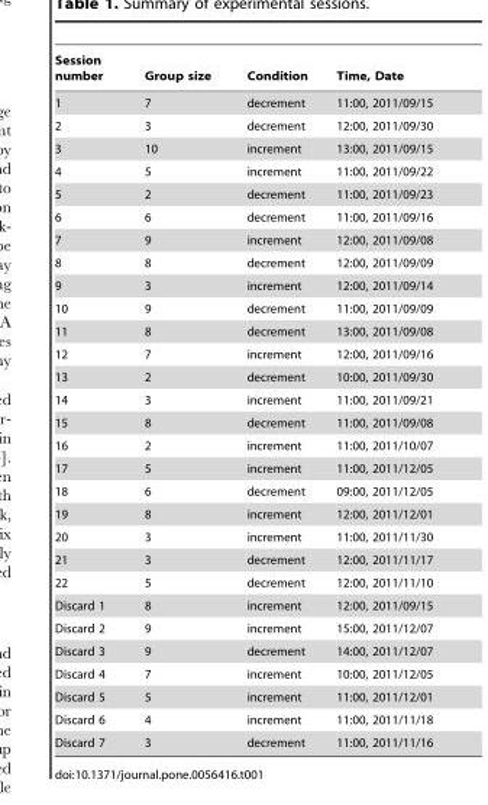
<table><thead><tr><td>Session number</td><td>Group size</td><td>Condition</td><td>Time, Date</td></tr></thead><tbody><tr><td>1</td><td>7</td><td>decrement</td><td>11:00, 2011/09/15</td></tr><tr><td>2</td><td>3</td><td>decrement</td><td>12:00, 2011/09/30</td></tr><tr><td>3</td><td>10</td><td>increment</td><td>13:00, 2011/09/15</td></tr><tr><td>4</td><td>5</td><td>increment</td><td>11:00, 2011/09/22</td></tr><tr><td>5</td><td>2</td><td>decrement</td><td>11:00, 2011/09/23</td></tr><tr><td>6</td><td>6</td><td>decrement</td><td>11:00, 2011/09/16</td></tr><tr><td>7</td><td>9</td><td>increment</td><td>12:00, 2011/09/08</td></tr><tr><td>8</td><td>8</td><td>decrement</td><td>12:00, 2011/09/09</td></tr><tr><td>9</td><td>3</td><td>increment</td><td>12:00, 2011/09/14</td></tr><tr><td>10</td><td>9</td><td>decrement</td><td>11:00, 2011/09/09</td></tr><tr><td>11</td><td>8</td><td>decrement</td><td>13:00, 2011/09/08</td></tr><tr><td>12</td><td>7</td><td>increment</td><td>12:00, 2011/09/16</td></tr><tr><td>13</td><td>2</td><td>decrement</td><td>10:00, 2011/09/30</td></tr><tr><td>14</td><td>3</td><td>increment</td><td>11:00, 2011/09/21</td></tr><tr><td>15</td><td>8</td><td>decrement</td><td>11:00, 2011/09/08</td></tr><tr><td>16</td><td>2</td><td>increment</td><td>11:00, 2011/10/07</td></tr><tr><td>17</td><td>5</td><td>increment</td><td>11:00, 2011/12/05</td></tr><tr><td>18</td><td>6</td><td>decrement</td><td>09:00, 2011/12/05</td></tr><tr><td>19</td><td>8</td><td>increment</td><td>12:00, 2011/12/01</td></tr><tr><td>20</td><td>3</td><td>increment</td><td>11:00, 2011/11/30</td></tr><tr><td>21</td><td>3</td><td>decrement</td><td>12:00, 2011/11/17</td></tr><tr><td>22</td><td>5</td><td>decrement</td><td>12:00, 2011/11/10</td></tr><tr><td>Discard 1</td><td>8</td><td>increment</td><td>12:00, 2011/09/15</td></tr><tr><td>Discard 2</td><td>9</td><td>increment</td><td>15:00, 2011/12/07</td></tr><tr><td>Discard 3</td><td>9</td><td>decrement</td><td>14:00, 2011/12/07</td></tr><tr><td>Discard 4</td><td>7</td><td>increment</td><td>10:00, 2011/12/05</td></tr><tr><td>Discard 5</td><td>5</td><td>increment</td><td>11:00, 2011/12/01</td></tr><tr><td>Discard 6</td><td>4</td><td>increment</td><td>11:00, 2011/11/18</td></tr><tr><td>Discard 7</td><td>3</td><td>decrement</td><td>11:00, 2011/11/16</td></tr></tbody></table>